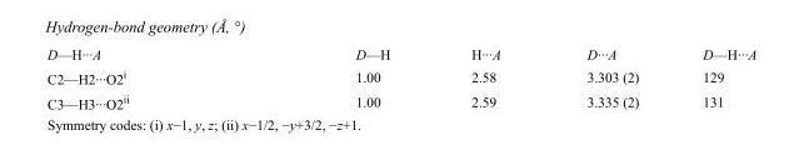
<table><tbody><tr><td>D—H···A</td><td>D—H</td><td>H···A</td><td>D···A</td><td>D—H···A</td></tr><tr><td>C2—H2···O2<sup>i</sup></td><td>1.00</td><td>2.58</td><td>3.303 (2)</td><td>129</td></tr><tr><td>C3—H3···O2<sup>ii</sup></td><td>1.00</td><td>2.59</td><td>3.335 (2)</td><td>131</td></tr></tbody></table>